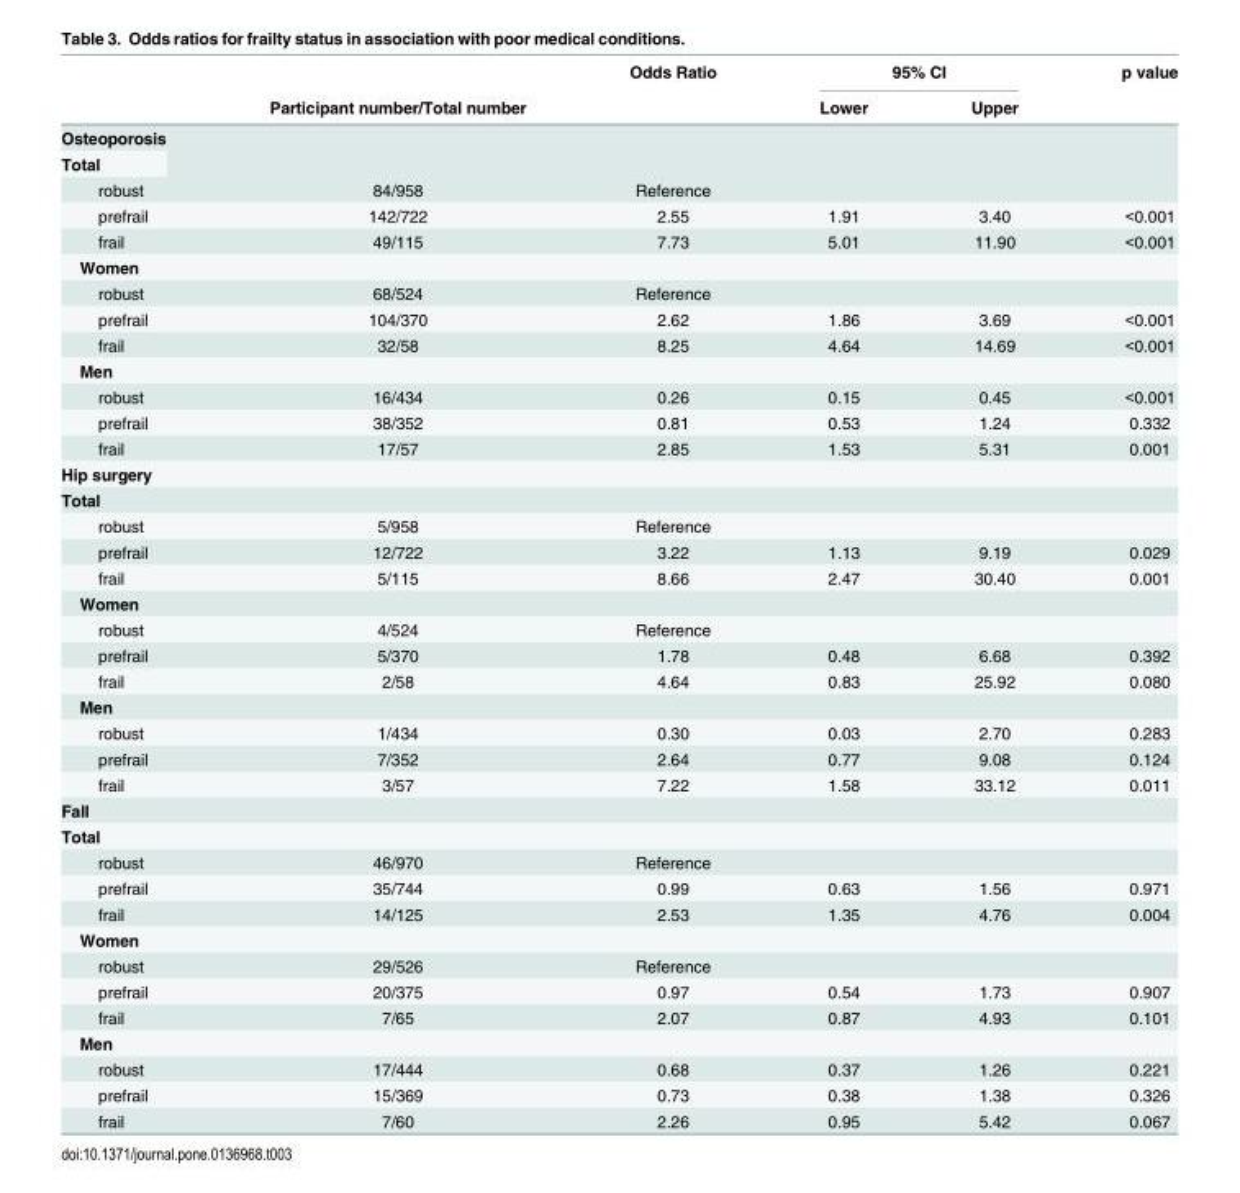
<table><thead><tr><td rowspan="2"></td><td rowspan="2">Participant number/Total number</td><td rowspan="2">Odds Ratio</td><td colspan="2">95% CI</td><td rowspan="2">p value</td></tr><tr><td>Lower</td><td>Upper</td></tr></thead><tbody><tr><td>Osteoporosis</td><td rowspan="2"></td><td rowspan="2"></td><td rowspan="2"></td><td rowspan="2"></td><td rowspan="2"></td></tr><tr><td>Total</td></tr><tr><td>robust</td><td>84/958</td><td>Reference</td><td></td><td></td><td></td></tr><tr><td>prefrail</td><td>142/722</td><td>2.55</td><td>1.91</td><td>3.40</td><td>&lt;0.001</td></tr><tr><td>frail</td><td>49/115</td><td>7.73</td><td>5.01</td><td>11.90</td><td>&lt;0.001</td></tr><tr><td colspan="6">Women</td></tr><tr><td>robust</td><td>68/524</td><td>Reference</td><td></td><td></td><td></td></tr><tr><td>prefrail</td><td>104/370</td><td>2.62</td><td>1.86</td><td>3.69</td><td>&lt;0.001</td></tr><tr><td>frail</td><td>32/58</td><td>8.25</td><td>4.64</td><td>14.69</td><td>&lt;0.001</td></tr><tr><td colspan="6">Men</td></tr><tr><td>robust</td><td>16/434</td><td>0.26</td><td>0.15</td><td>0.45</td><td>&lt;0.001</td></tr><tr><td>prefrail</td><td>38/352</td><td>0.81</td><td>0.53</td><td>1.24</td><td>0.332</td></tr><tr><td>frail</td><td>17/57</td><td>2.85</td><td>1.53</td><td>5.31</td><td>0.001</td></tr><tr><td colspan="6">Hip surgery</td></tr><tr><td colspan="6">Total</td></tr><tr><td>robust</td><td>5/958</td><td>Reference</td><td></td><td></td><td></td></tr><tr><td>prefrail</td><td>12/722</td><td>3.22</td><td>1.13</td><td>9.19</td><td>0.029</td></tr><tr><td>frail</td><td>5/115</td><td>8.66</td><td>2.47</td><td>30.40</td><td>0.001</td></tr><tr><td colspan="6">Women</td></tr><tr><td>robust</td><td>4/524</td><td>Reference</td><td></td><td></td><td></td></tr><tr><td>prefrail</td><td>5/370</td><td>1.78</td><td>0.48</td><td>6.68</td><td>0.392</td></tr><tr><td>frail</td><td>2/58</td><td>4.64</td><td>0.83</td><td>25.92</td><td>0.080</td></tr><tr><td colspan="6">Men</td></tr><tr><td>robust</td><td>1/434</td><td>0.30</td><td>0.03</td><td>2.70</td><td>0.283</td></tr><tr><td>prefrail</td><td>7/352</td><td>2.64</td><td>0.77</td><td>9.08</td><td>0.124</td></tr><tr><td>frail</td><td>3/57</td><td>7.22</td><td>1.58</td><td>33.12</td><td>0.011</td></tr><tr><td colspan="6">Fall</td></tr><tr><td colspan="6">Total</td></tr><tr><td>robust</td><td>46/970</td><td>Reference</td><td></td><td></td><td></td></tr><tr><td>prefrail</td><td>35/744</td><td>0.99</td><td>0.63</td><td>1.56</td><td>0.971</td></tr><tr><td>frail</td><td>14/125</td><td>2.53</td><td>1.35</td><td>4.76</td><td>0.004</td></tr><tr><td colspan="6">Women</td></tr><tr><td>robust</td><td>29/526</td><td>Reference</td><td></td><td></td><td></td></tr><tr><td>prefrail</td><td>20/375</td><td>0.97</td><td>0.54</td><td>1.73</td><td>0.907</td></tr><tr><td>frail</td><td>7/65</td><td>2.07</td><td>0.87</td><td>4.93</td><td>0.101</td></tr><tr><td colspan="6">Men</td></tr><tr><td>robust</td><td>17/444</td><td>0.68</td><td>0.37</td><td>1.26</td><td>0.221</td></tr><tr><td>prefrail</td><td>15/369</td><td>0.73</td><td>0.38</td><td>1.38</td><td>0.326</td></tr><tr><td>frail</td><td>7/60</td><td>2.26</td><td>0.95</td><td>5.42</td><td>0.067</td></tr></tbody></table>